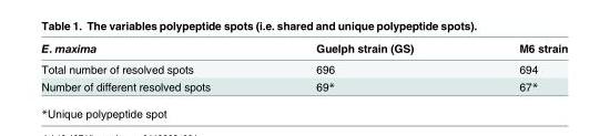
<table><thead><tr><td>E. maxima</td><td>Guelph strain (GS)</td><td>M6 strain</td></tr></thead><tbody><tr><td>Total number of resolved spots</td><td>696</td><td>694</td></tr><tr><td>Number of different resolved spots</td><td>69*</td><td>67*</td></tr></tbody></table>